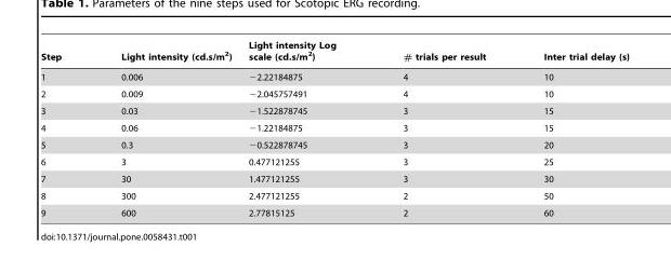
<table><thead><tr><td>Step</td><td>Light intensity (cd.s/m<sup>2</sup>)</td><td>Light intensity Log scale (cd.s/m<sup>2</sup>)</td><td># trials per result</td><td>Inter trial delay (s)</td></tr></thead><tbody><tr><td>1</td><td>0.006</td><td>−2.22184875</td><td>4</td><td>10</td></tr><tr><td>2</td><td>0.009</td><td>−2.045757491</td><td>4</td><td>10</td></tr><tr><td>3</td><td>0.03</td><td>−1.522878745</td><td>3</td><td>15</td></tr><tr><td>4</td><td>0.06</td><td>−1.22184875</td><td>3</td><td>15</td></tr><tr><td>5</td><td>0.3</td><td>−0.522878745</td><td>3</td><td>20</td></tr><tr><td>6</td><td>3</td><td>0.477121255</td><td>3</td><td>25</td></tr><tr><td>7</td><td>30</td><td>1.477121255</td><td>3</td><td>30</td></tr><tr><td>8</td><td>300</td><td>2.477121255</td><td>2</td><td>50</td></tr><tr><td>9</td><td>600</td><td>2.77815125</td><td>2</td><td>60</td></tr></tbody></table>